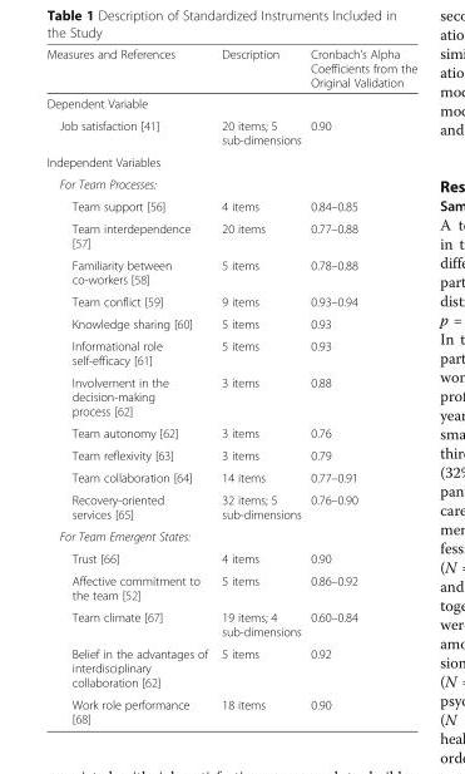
<table><thead><tr><td>Measures and References</td><td>Description</td><td>Cronbach’s Alpha Coefficients from the Original Validation</td></tr></thead><tbody><tr><td colspan="3">Dependent Variable</td></tr><tr><td>Job satisfaction [41]</td><td>20 items; 5 sub-dimensions</td><td>0.90</td></tr><tr><td colspan="3">Independent Variables</td></tr><tr><td colspan="3">For Team Processes:</td></tr><tr><td>Team support [56]</td><td>4 items</td><td>0.84–0.85</td></tr><tr><td>Team interdependence [57]</td><td>20 items</td><td>0.77–0.88</td></tr><tr><td>Familiarity between co-workers [58]</td><td>5 items</td><td>0.78–0.88</td></tr><tr><td>Team conflict [59]</td><td>9 items</td><td>0.93–0.94</td></tr><tr><td>Knowledge sharing [60]</td><td>5 items</td><td>0.93</td></tr><tr><td>Informational role self-efficacy [61]</td><td>5 items</td><td>0.93</td></tr><tr><td>Involvement in the decision-making process [62]</td><td>3 items</td><td>0.88</td></tr><tr><td>Team autonomy [62]</td><td>3 items</td><td>0.76</td></tr><tr><td>Team reflexivity [63]</td><td>3 items</td><td>0.79</td></tr><tr><td>Team collaboration [64]</td><td>14 items</td><td>0.77–0.91</td></tr><tr><td>Recovery-oriented services [65]</td><td>32 items; 5 sub-dimensions</td><td>0.76–0.90</td></tr><tr><td colspan="3">For Team Emergent States:</td></tr><tr><td>Trust [66]</td><td>4 items</td><td>0.90</td></tr><tr><td>Affective commitment to the team [52]</td><td>5 items</td><td>0.86–0.92</td></tr><tr><td>Team climate [67]</td><td>19 items; 4 sub-dimensions</td><td>0.60–0.84</td></tr><tr><td>Belief in the advantages of interdisciplinary collaboration [62]</td><td>5 items</td><td>0.92</td></tr><tr><td>Work role performance [68]</td><td>18 items</td><td>0.90</td></tr></tbody></table>